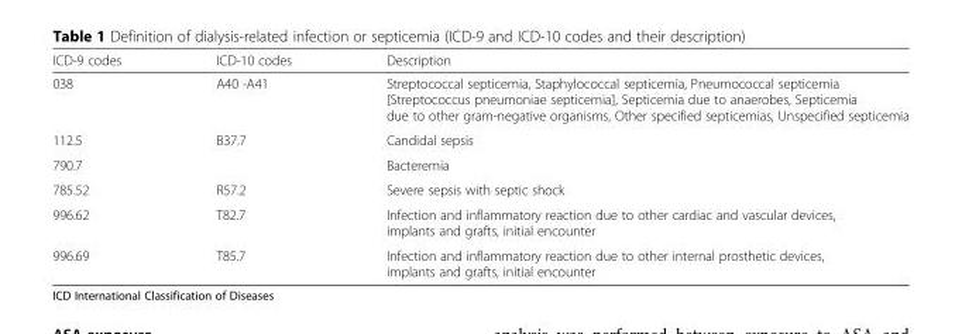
<table><thead><tr><td>ICD-9 codes</td><td>ICD-10 codes</td><td>Description</td></tr></thead><tbody><tr><td>038</td><td>A40 -A41</td><td>Streptococcal septicemia, Staphylococcal septicemia, Pneumococcal septicemia [Streptococcus pneumoniae septicemia], Septicemia due to anaerobes, Septicemia due to other gram-negative organisms, Other specified septicemias, Unspecified septicemia</td></tr><tr><td>112.5</td><td>B37.7</td><td>Candidal sepsis</td></tr><tr><td>790.7</td><td></td><td>Bacteremia</td></tr><tr><td>785.52</td><td>R57.2</td><td>Severe sepsis with septic shock</td></tr><tr><td>996.62</td><td>T82.7</td><td>Infection and inflammatory reaction due to other cardiac and vascular devices, implants and grafts, initial encounter</td></tr><tr><td>996.69</td><td>T85.7</td><td>Infection and inflammatory reaction due to other internal prosthetic devices, implants and grafts, initial encounter</td></tr></tbody></table>